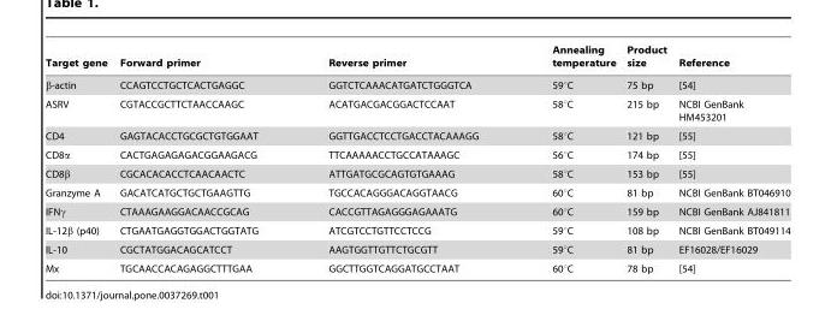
<table><thead><tr><td>Target gene</td><td>Forward primer</td><td>Reverse primer</td><td>Annealing temperature</td><td>Product size</td><td>Reference</td></tr></thead><tbody><tr><td>β-actin</td><td>CCAGTCCTGCTCACTGAGGC</td><td>GGTCTCAAACATGATCTGGGTCA</td><td>59°C</td><td>75 bp</td><td>[54]</td></tr><tr><td>ASRV</td><td>CGTACCGCTTCTAACCAAGC</td><td>ACATGACGACGGACTCCAAT</td><td>58°C</td><td>215 bp</td><td>NCBI GenBank HM453201</td></tr><tr><td>CD4</td><td>GAGTACACCTGCGCTGTGGAAT</td><td>GGTTGACCTCCTGACCTACAAAGG</td><td>58°C</td><td>121 bp</td><td>[55]</td></tr><tr><td>CD8α</td><td>CACTGAGAGAGACGGAAGACG</td><td>TTCAAAAACCTGCCATAAAGC</td><td>56°C</td><td>174 bp</td><td>[55]</td></tr><tr><td>CD8β</td><td>CGCACACACCTCAACAACTC</td><td>ATTGATGCGCAGTGTGAAAG</td><td>58°C</td><td>153 bp</td><td>[55]</td></tr><tr><td>Granzyme A</td><td>GACATCATGCTGCTGAAGTTG</td><td>TGCCACAGGGACAGGTAACG</td><td>60°C</td><td>81 bp</td><td>NCBI GenBank BT046910</td></tr><tr><td>IFNγ</td><td>CTAAAGAAGGACAACCGCAG</td><td>CACCGTTAGAGGGAGAAATG</td><td>60°C</td><td>159 bp</td><td>NCBI GenBank AJ841811</td></tr><tr><td>IL-12β (p40)</td><td>CTGAATGAGGTGGACTGGTATG</td><td>ATCGTCCTGTTCCTCCG</td><td>59°C</td><td>108 bp</td><td>NCBI GenBank BT049114</td></tr><tr><td>IL-10</td><td>CGCTATGGACAGCATCCT</td><td>AAGTGGTTGTTCTGCGTT</td><td>59°C</td><td>81 bp</td><td>EF16028/EF16029</td></tr><tr><td>Mx</td><td>TGCAACCACAGAGGCTTTGAA</td><td>GGCTTGGTCAGGATGCCTAAT</td><td>60°C</td><td>78 bp</td><td>[54]</td></tr></tbody></table>